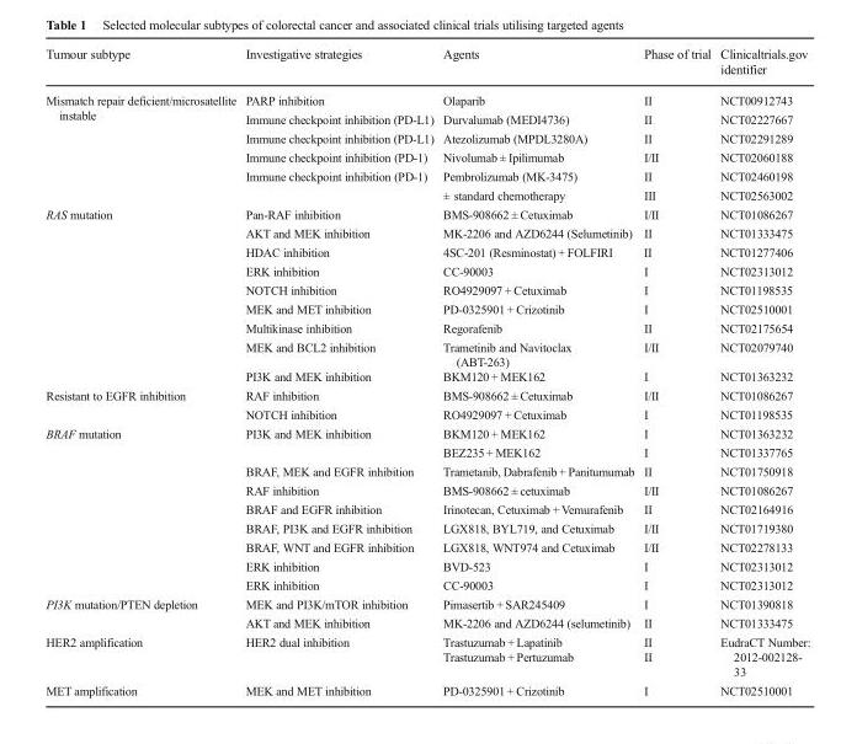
<table><thead><tr><td>Tumour subtype</td><td>Investigative strategies</td><td>Agents</td><td>Phase of trial</td><td>Clinicaltrials.gov identifier</td></tr></thead><tbody><tr><td rowspan="6">Mismatch repair deficient/microsatellite instable</td><td>PARP inhibition</td><td>Olaparib</td><td>II</td><td>NCT00912743</td></tr><tr><td>Immune checkpoint inhibition (PD-L1)</td><td>Durvalumab (MEDI4736)</td><td>II</td><td>NCT02227667</td></tr><tr><td>Immune checkpoint inhibition (PD-L1)</td><td>Atezolizumab (MPDL3280A)</td><td>II</td><td>NCT02291289</td></tr><tr><td>Immune checkpoint inhibition (PD-1)</td><td>Nivolumab ± Ipilimumab</td><td>I/II</td><td>NCT02060188</td></tr><tr><td rowspan="2">Immune checkpoint inhibition (PD-1)</td><td>Pembrolizumab (MK-3475)</td><td>II</td><td>NCT02460198</td></tr><tr><td>± standard chemotherapy</td><td>III</td><td>NCT02563002</td></tr><tr><td rowspan="9">RAS mutation</td><td>Pan-RAF inhibition</td><td>BMS-908662 ± Cetuximab</td><td>I/II</td><td>NCT01086267</td></tr><tr><td>AKT and MEK inhibition</td><td>MK-2206 and AZD6244 (Selumetinib)</td><td>II</td><td>NCT01333475</td></tr><tr><td>HDAC inhibition</td><td>4SC-201 (Resminostat) + FOLFIRI</td><td>II</td><td>NCT01277406</td></tr><tr><td>ERK inhibition</td><td>CC-90003</td><td>I</td><td>NCT02313012</td></tr><tr><td>NOTCH inhibition</td><td>RO4929097 + Cetuximab</td><td>I</td><td>NCT01198535</td></tr><tr><td>MEK and MET inhibition</td><td>PD-0325901 + Crizotinib</td><td>I</td><td>NCT02510001</td></tr><tr><td>Multikinase inhibition</td><td>Regorafenib</td><td>II</td><td>NCT02175654</td></tr><tr><td>MEK and BCL2 inhibition</td><td>Trametinib and Navitoclax (ABT-263)</td><td>I/II</td><td>NCT02079740</td></tr><tr><td>PI3K and MEK inhibition</td><td>BKM120 + MEK162</td><td>I</td><td>NCT01363232</td></tr><tr><td rowspan="2">Resistant to EGFR inhibition</td><td>RAF inhibition</td><td>BMS-908662 ± Cetuximab</td><td>I/II</td><td>NCT01086267</td></tr><tr><td>NOTCH inhibition</td><td>RO4929097 + Cetuximab</td><td>I</td><td>NCT01198535</td></tr><tr><td rowspan="9">BRAF mutation</td><td rowspan="2">PI3K and MEK inhibition</td><td>BKM120 + MEK162</td><td>I</td><td>NCT01363232</td></tr><tr><td>BEZ235 + MEK162</td><td>I</td><td>NCT01337765</td></tr><tr><td>BRAF, MEK and EGFR inhibition</td><td>Trametanib, Dabrafenib + Panitumumab</td><td>II</td><td>NCT01750918</td></tr><tr><td>RAF inhibition</td><td>BMS-908662 ± cetuximab</td><td>I/II</td><td>NCT01086267</td></tr><tr><td>BRAF and EGFR inhibition</td><td>Irinotecan, Cetuximab + Vemurafenib</td><td>II</td><td>NCT02164916</td></tr><tr><td>BRAF, PI3K and EGFR inhibition</td><td>LGX818, BYL719, and Cetuximab</td><td>I/II</td><td>NCT01719380</td></tr><tr><td>BRAF, WNT and EGFR inhibition</td><td>LGX818, WNT974 and Cetuximab</td><td>I/II</td><td>NCT02278133</td></tr><tr><td>ERK inhibition</td><td>BVD-523</td><td>I</td><td>NCT02313012</td></tr><tr><td>ERK inhibition</td><td>CC-90003</td><td>I</td><td>NCT02313012</td></tr><tr><td rowspan="2">PI3K mutation/PTEN depletion</td><td>MEK and PI3K/mTOR inhibition</td><td>Pimasertib + SAR245409</td><td>I</td><td>NCT01390818</td></tr><tr><td>AKT and MEK inhibition</td><td>MK-2206 and AZD6244 (selumetinib)</td><td>II</td><td>NCT01333475</td></tr><tr><td rowspan="2">HER2 amplification</td><td rowspan="2">HER2 dual inhibition</td><td>Trastuzumab + Lapatinib</td><td>II</td><td rowspan="2">EudraCT Number: 2012-002128- 33</td></tr><tr><td>Trastuzumab + Pertuzumab</td><td>II</td></tr><tr><td>MET amplification</td><td>MEK and MET inhibition</td><td>PD-0325901 + Crizotinib</td><td>I</td><td>NCT02510001</td></tr></tbody></table>